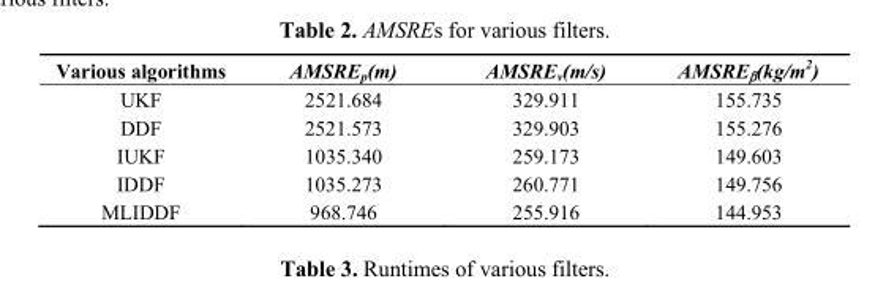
<table><thead><tr><td>Various algorithms</td><td>AMSRE<sub>p</sub>(m)</td><td>AMSRE<sub>v</sub>(m/s)</td><td>AMSRE<sub>β</sub>(kg/m<sup>2</sup>)</td></tr></thead><tbody><tr><td>UKF</td><td>2521.684</td><td>329.911</td><td>155.735</td></tr><tr><td>DDF</td><td>2521.573</td><td>329.903</td><td>155.276</td></tr><tr><td>IUKF</td><td>1035.340</td><td>259.173</td><td>149.603</td></tr><tr><td>IDDF</td><td>1035.273</td><td>260.771</td><td>149.756</td></tr><tr><td>MLIDDF</td><td>968.746</td><td>255.916</td><td>144.953</td></tr></tbody></table>